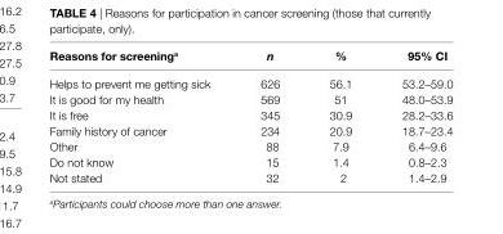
<table><thead><tr><td>reasons for screening<sup>a</sup></td><td>n</td><td>%</td><td>95% ci</td></tr></thead><tbody><tr><td>Helps to prevent me getting sick</td><td>626</td><td>56.1</td><td>53.2–59.0</td></tr><tr><td>It is good for my health</td><td>569</td><td>51</td><td>48.0–53.9</td></tr><tr><td>It is free</td><td>345</td><td>30.9</td><td>28.2–33.6</td></tr><tr><td>Family history of cancer</td><td>234</td><td>20.9</td><td>18.7–23.4</td></tr><tr><td>Other</td><td>88</td><td>7.9</td><td>6.4–9.6</td></tr><tr><td>Do not know</td><td>15</td><td>1.4</td><td>0.8–2.3</td></tr><tr><td>Not stated</td><td>32</td><td>2</td><td>1.4–2.9</td></tr></tbody></table>